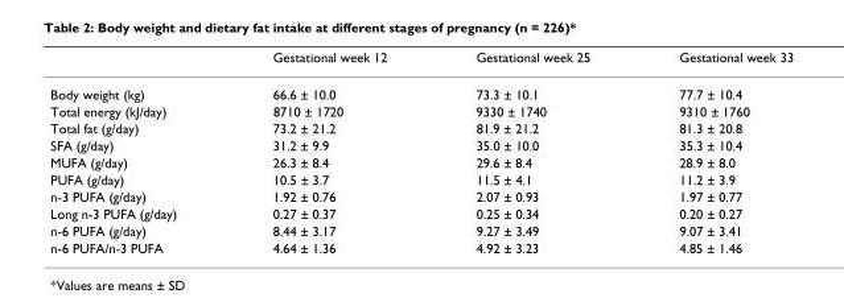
<table><thead><tr><td></td><td>Gestational week 12</td><td>Gestational week 25</td><td>Gestational week 33</td></tr></thead><tbody><tr><td>Body weight (kg)</td><td>66.6 ± 10.0</td><td>73.3 ± 10.1</td><td>77.7 ± 10.4</td></tr><tr><td>Total energy (kJ/day)</td><td>8710 ± 1720</td><td>9330 ± 1740</td><td>9310 ± 1760</td></tr><tr><td>Total fat (g/day)</td><td>73.2 ± 21.2</td><td>81.9 ± 21.2</td><td>81.3 ± 20.8</td></tr><tr><td>SFA (g/day)</td><td>31.2 ± 9.9</td><td>35.0 ± 10.0</td><td>35.3 ± 10.4</td></tr><tr><td>MUFA (g/day)</td><td>26.3 ± 8.4</td><td>29.6 ± 8.4</td><td>28.9 ± 8.0</td></tr><tr><td>PUFA (g/day)</td><td>10.5 ± 3.7</td><td>11.5 ± 4.1</td><td>11.2 ± 3.9</td></tr><tr><td>n-3 PUFA (g/day)</td><td>1.92 ± 0.76</td><td>2.07 ± 0.93</td><td>1.97 ± 0.77</td></tr><tr><td>Long n-3 PUFA (g/day)</td><td>0.27 ± 0.37</td><td>0.25 ± 0.34</td><td>0.20 ± 0.27</td></tr><tr><td>n-6 PUFA (g/day)</td><td>8.44 ± 3.17</td><td>9.27 ± 3.49</td><td>9.07 ± 3.41</td></tr><tr><td>n-6 PUFA/n-3 PUFA</td><td>4.64 ± 1.36</td><td>4.92 ± 3.23</td><td>4.85 ± 1.46</td></tr></tbody></table>